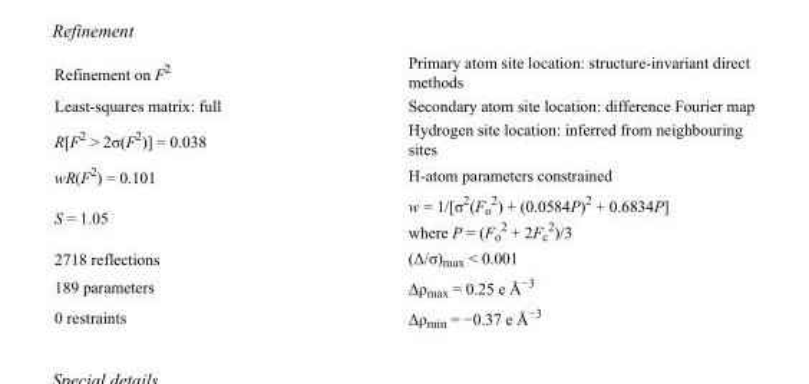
<table><tbody><tr><td>Refinement on F<sup>2</sup></td><td>Primary atom site location: structure-invariant direct methods</td></tr><tr><td>Least-squares matrix: full</td><td>Secondary atom site location: difference Fourier map</td></tr><tr><td>R[F<sup>2</sup> &gt; 2σ(F<sup>2</sup>)] = 0.038</td><td>Hydrogen site location: inferred from neighbouring sites</td></tr><tr><td>wR(F<sup>2</sup>) = 0.101</td><td>H-atom parameters constrained</td></tr><tr><td>S = 1.05</td><td>w = 1/[σ<sup>2</sup>(F<sub>o</sub> <sup>2</sup>) + (0.0584P)<sup>2</sup> + 0.6834P] where P = (F<sub>o</sub> <sup>2</sup> + 2F<sub>c</sub> <sup>2</sup>)/3</td></tr><tr><td>2718 reflections</td><td>(Δ/σ)<sub>max</sub> &lt; 0.001</td></tr><tr><td>189 parameters</td><td>Δρ<sub>max</sub> = 0.25 e Å<sup>−3</sup></td></tr><tr><td>0 restraints</td><td>Δρ<sub>min</sub> = −0.37 e Å<sup>−3</sup></td></tr></tbody></table>